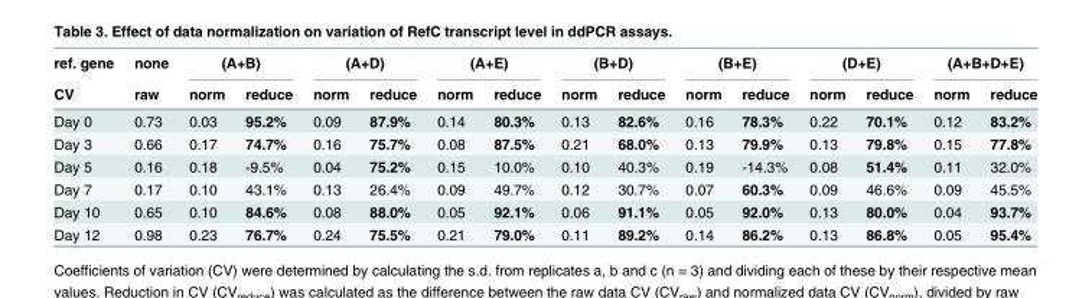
<table><thead><tr><td rowspan="2">ref. gene CV</td><td rowspan="2">none raw</td><td colspan="2">(A+B)</td><td colspan="2">(A+D)</td><td colspan="2">(A+E)</td><td colspan="2">(B+D)</td><td colspan="2">(B+E)</td><td colspan="2">(D+E)</td><td colspan="2">(A+B+D+E)</td></tr><tr><td>norm</td><td>reduce</td><td>norm</td><td>reduce</td><td>norm</td><td>reduce</td><td>norm</td><td>reduce</td><td>norm</td><td>reduce</td><td>norm</td><td>reduce</td><td>norm</td><td>reduce</td></tr></thead><tbody><tr><td>Day 0</td><td>0.73</td><td>0.03</td><td>95.2%</td><td>0.09</td><td>87.9%</td><td>0.14</td><td>80.3%</td><td>0.13</td><td>82.6%</td><td>0.16</td><td>78.3%</td><td>0.22</td><td>70.1%</td><td>0.12</td><td>83.2%</td></tr><tr><td>Day 3</td><td>0.66</td><td>0.17</td><td>74.7%</td><td>0.16</td><td>75.7%</td><td>0.08</td><td>87.5%</td><td>0.21</td><td>68.0%</td><td>0.13</td><td>79.9%</td><td>0.13</td><td>79.8%</td><td>0.15</td><td>77.8%</td></tr><tr><td>Day 5</td><td>0.16</td><td>0.18</td><td>-9.5%</td><td>0.04</td><td>75.2%</td><td>0.15</td><td>10.0%</td><td>0.10</td><td>40.3%</td><td>0.19</td><td>-14.3%</td><td>0.08</td><td>51.4%</td><td>0.11</td><td>32.0%</td></tr><tr><td>Day 7</td><td>0.17</td><td>0.10</td><td>43.1%</td><td>0.13</td><td>26.4%</td><td>0.09</td><td>49.7%</td><td>0.12</td><td>30.7%</td><td>0.07</td><td>60.3%</td><td>0.09</td><td>46.6%</td><td>0.09</td><td>45.5%</td></tr><tr><td>Day 10</td><td>0.65</td><td>0.10</td><td>84.6%</td><td>0.08</td><td>88.0%</td><td>0.05</td><td>92.1%</td><td>0.06</td><td>91.1%</td><td>0.05</td><td>92.0%</td><td>0.13</td><td>80.0%</td><td>0.04</td><td>93.7%</td></tr><tr><td>Day 12</td><td>0.98</td><td>0.23</td><td>76.7%</td><td>0.24</td><td>75.5%</td><td>0.21</td><td>79.0%</td><td>0.11</td><td>89.2%</td><td>0.14</td><td>86.2%</td><td>0.13</td><td>86.8%</td><td>0.05</td><td>95.4%</td></tr></tbody></table>